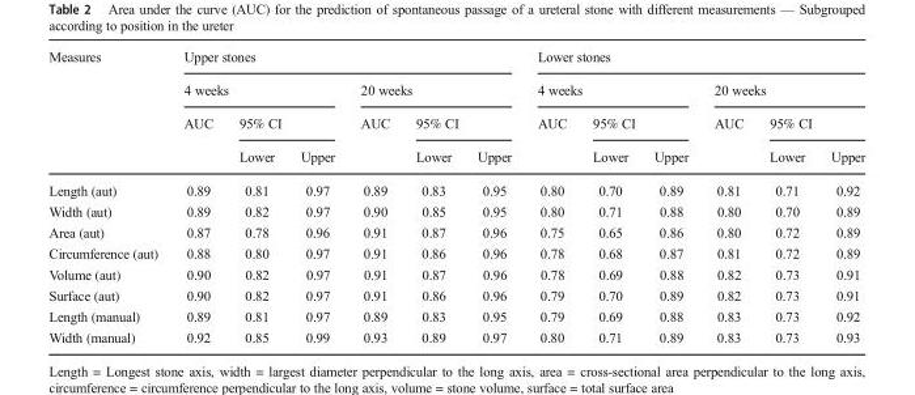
<table><thead><tr><td rowspan="4">Measures</td><td colspan="6">Upper stones</td><td colspan="6">Lower stones</td></tr><tr><td colspan="3">4 weeks</td><td colspan="3">20 weeks</td><td colspan="3">4 weeks</td><td colspan="3">20 weeks</td></tr><tr><td rowspan="2">AUC</td><td colspan="2">95% CI</td><td rowspan="2">AUC</td><td colspan="2">95% CI</td><td rowspan="2">AUC</td><td colspan="2">95% CI</td><td rowspan="2">AUC</td><td colspan="2">95% CI</td></tr><tr><td>Lower</td><td>Upper</td><td>Lower</td><td>Upper</td><td>Lower</td><td>Upper</td><td>Lower</td><td>Upper</td></tr></thead><tbody><tr><td>Length (aut)</td><td>0.89</td><td>0.81</td><td>0.97</td><td>0.89</td><td>0.83</td><td>0.95</td><td>0.80</td><td>0.70</td><td>0.89</td><td>0.81</td><td>0.71</td><td>0.92</td></tr><tr><td>Width (aut)</td><td>0.89</td><td>0.82</td><td>0.97</td><td>0.90</td><td>0.85</td><td>0.95</td><td>0.80</td><td>0.71</td><td>0.88</td><td>0.80</td><td>0.70</td><td>0.89</td></tr><tr><td>Area (aut)</td><td>0.87</td><td>0.78</td><td>0.96</td><td>0.91</td><td>0.87</td><td>0.96</td><td>0.75</td><td>0.65</td><td>0.86</td><td>0.80</td><td>0.72</td><td>0.89</td></tr><tr><td>Circumference (aut)</td><td>0.88</td><td>0.80</td><td>0.97</td><td>0.91</td><td>0.86</td><td>0.96</td><td>0.78</td><td>0.68</td><td>0.87</td><td>0.81</td><td>0.72</td><td>0.89</td></tr><tr><td>Volume (aut)</td><td>0.90</td><td>0.82</td><td>0.97</td><td>0.91</td><td>0.87</td><td>0.96</td><td>0.78</td><td>0.69</td><td>0.88</td><td>0.82</td><td>0.73</td><td>0.91</td></tr><tr><td>Surface (aut)</td><td>0.90</td><td>0.82</td><td>0.97</td><td>0.91</td><td>0.86</td><td>0.96</td><td>0.79</td><td>0.70</td><td>0.89</td><td>0.82</td><td>0.73</td><td>0.91</td></tr><tr><td>Length (manual)</td><td>0.89</td><td>0.81</td><td>0.97</td><td>0.89</td><td>0.83</td><td>0.95</td><td>0.79</td><td>0.69</td><td>0.88</td><td>0.83</td><td>0.73</td><td>0.92</td></tr><tr><td>Width (manual)</td><td>0.92</td><td>0.85</td><td>0.99</td><td>0.93</td><td>0.89</td><td>0.97</td><td>0.80</td><td>0.71</td><td>0.89</td><td>0.83</td><td>0.73</td><td>0.93</td></tr></tbody></table>